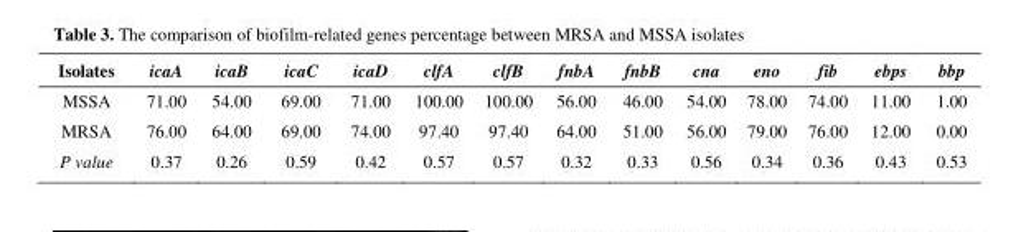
<table><thead><tr><td>Isolates</td><td>icaA</td><td>icaB</td><td>icaC</td><td>icaD</td><td>clfA</td><td>clfB</td><td>fnbA</td><td>fnbB</td><td>cna</td><td>eno</td><td>fib</td><td>ebps</td><td>bbp</td></tr></thead><tbody><tr><td>MSSA</td><td>71.00</td><td>54.00</td><td>69.00</td><td>71.00</td><td>100.00</td><td>100.00</td><td>56.00</td><td>46.00</td><td>54.00</td><td>78.00</td><td>74.00</td><td>11.00</td><td>1.00</td></tr><tr><td>MRSA</td><td>76.00</td><td>64.00</td><td>69.00</td><td>74.00</td><td>97.40</td><td>97.40</td><td>64.00</td><td>51.00</td><td>56.00</td><td>79.00</td><td>76.00</td><td>12.00</td><td>0.00</td></tr><tr><td>P value</td><td>0.37</td><td>0.26</td><td>0.59</td><td>0.42</td><td>0.57</td><td>0.57</td><td>0.32</td><td>0.33</td><td>0.56</td><td>0.34</td><td>0.36</td><td>0.43</td><td>0.53</td></tr></tbody></table>